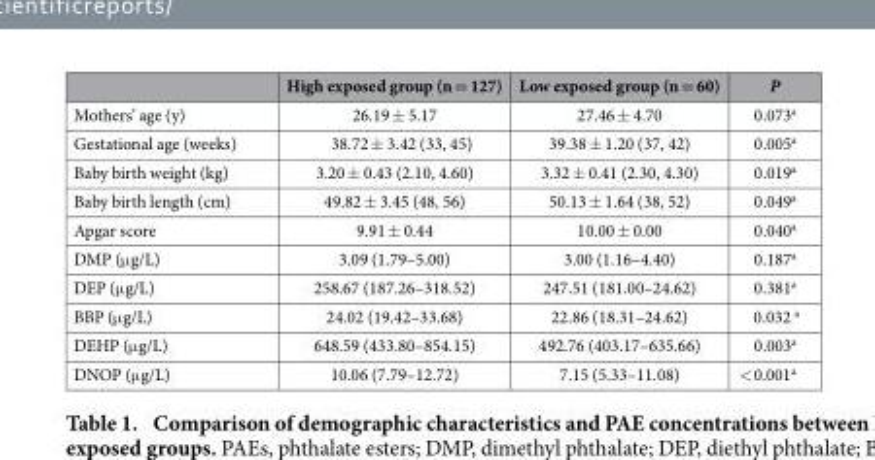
<table><thead><tr><td></td><td>High exposed group (n = 127)</td><td>Low exposed group (n = 60)</td><td>P</td></tr></thead><tbody><tr><td>Mothers’ age (y)</td><td>26.19 ± 5.17</td><td>27.46 ± 4.70</td><td>0.073<sup>a</sup></td></tr><tr><td>Gestational age (weeks)</td><td>38.72 ± 3.42 (33, 45)</td><td>39.38 ± 1.20 (37, 42)</td><td>0.005<sup>a</sup></td></tr><tr><td>Baby birth weight (kg)</td><td>3.20 ± 0.43 (2.10, 4.60)</td><td>3.32 ± 0.41 (2.30, 4.30)</td><td>0.019<sup>a</sup></td></tr><tr><td>Baby birth length (cm)</td><td>49.82 ± 3.45 (48, 56)</td><td>50.13 ± 1.64 (38, 52)</td><td>0.049<sup>a</sup></td></tr><tr><td>Apgar score</td><td>9.91 ± 0.44</td><td>10.00 ± 0.00</td><td>0.040<sup>a</sup></td></tr><tr><td>DMP (μ g/L)</td><td>3.09 (1.79–5.00)</td><td>3.00 (1.16–4.40)</td><td>0.187<sup>a</sup></td></tr><tr><td>DEP (μ g/L)</td><td>258.67 (187.26–318.52)</td><td>247.51 (181.00–24.62)</td><td>0.381<sup>a</sup></td></tr><tr><td>BBP (μ g/L)</td><td>24.02 (19.42–33.68)</td><td>22.86 (18.31–24.62)</td><td>0.032 <sup>a</sup></td></tr><tr><td>DEHP (μ g/L)</td><td>648.59 (433.80–854.15)</td><td>492.76 (403.17–635.66)</td><td>0.003<sup>a</sup></td></tr><tr><td>DNOP (μ g/L)</td><td>10.06 (7.79–12.72)</td><td>7.15 (5.33–11.08)</td><td>&lt; 0.001<sup>a</sup></td></tr></tbody></table>